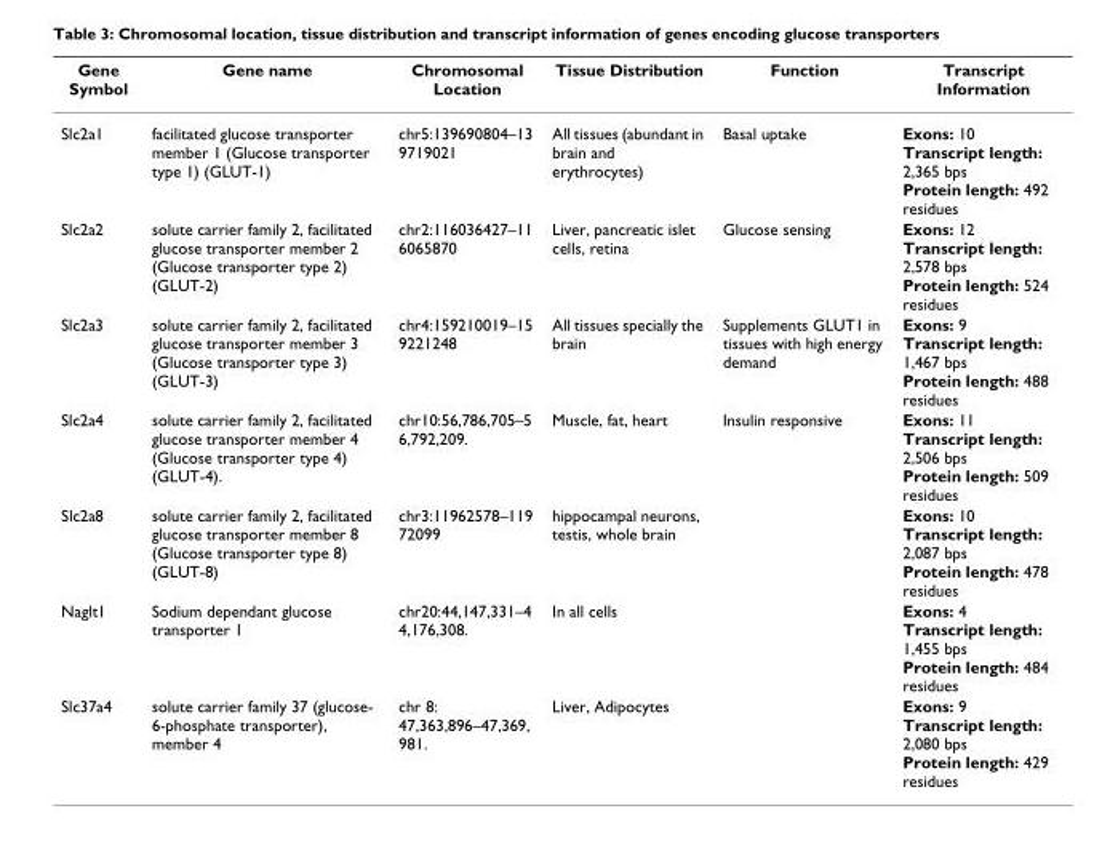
<table><thead><tr><td>Gene Symbol</td><td>Gene name</td><td>Chromosomal Location</td><td>Tissue Distribution</td><td>Function</td><td>Transcript Information</td></tr></thead><tbody><tr><td>Slc2a1</td><td>facilitated glucose transporter member 1 (Glucose transporter type 1) (GLUT-1)</td><td>chr5:139690804–13 9719021</td><td>All tissues (abundant in brain and erythrocytes)</td><td>Basal uptake</td><td>Exons: 10 Transcript length: 2,365 bps Protein length: 492 residues</td></tr><tr><td>Slc2a2</td><td>solute carrier family 2, facilitated glucose transporter member 2 (Glucose transporter type 2) (GLUT-2)</td><td>chr2:116036427–11 6065870</td><td>Liver, pancreatic islet cells, retina</td><td>Glucose sensing</td><td>Exons: 12 Transcript length: 2,578 bps Protein length: 524 residues</td></tr><tr><td>Slc2a3</td><td>solute carrier family 2, facilitated glucose transporter member 3 (Glucose transporter type 3) (GLUT-3)</td><td>chr4:159210019–15 9221248</td><td>All tissues specially the brain</td><td>Supplements GLUT1 in tissues with high energy demand</td><td>Exons: 9 Transcript length: 1,467 bps Protein length: 488 residues</td></tr><tr><td>Slc2a4</td><td>solute carrier family 2, facilitated glucose transporter member 4 (Glucose transporter type 4) (GLUT-4).</td><td>chr10:56,786,705–5 6,792,209.</td><td>Muscle, fat, heart</td><td>Insulin responsive</td><td>Exons: 11 Transcript length: 2,506 bps Protein length: 509 residues</td></tr><tr><td>Slc2a8</td><td>solute carrier family 2, facilitated glucose transporter member 8 (Glucose transporter type 8) (GLUT-8)</td><td>chr3:11962578–119 72099</td><td>hippocampal neurons, testis, whole brain</td><td></td><td>Exons: 10 Transcript length: 2,087 bps Protein length: 478 residues</td></tr><tr><td>Naglt1</td><td>Sodium dependant glucose transporter 1</td><td>chr20:44,147,331–4 4,176,308.</td><td>In all cells</td><td></td><td>Exons: 4 Transcript length: 1,455 bps Protein length: 484 residues</td></tr><tr><td>Slc37a4</td><td>solute carrier family 37 (glucose- 6-phosphate transporter), member 4</td><td>chr 8: 47,363,896–47,369, 981.</td><td>Liver, Adipocytes</td><td></td><td>Exons: 9 Transcript length: 2,080 bps Protein length: 429 residues</td></tr></tbody></table>